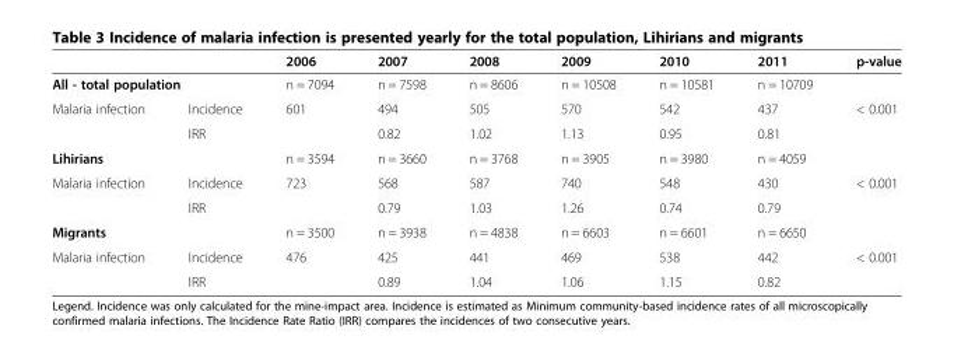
<table><thead><tr><td></td><td></td><td>2006</td><td>2007</td><td>2008</td><td>2009</td><td>2010</td><td>2011</td><td>p-value</td></tr></thead><tbody><tr><td>All - total population</td><td></td><td>n = 7094</td><td>n = 7598</td><td>n = 8606</td><td>n = 10508</td><td>n = 10581</td><td>n = 10709</td><td></td></tr><tr><td rowspan="2">Malaria infection</td><td>Incidence</td><td>601</td><td>494</td><td>505</td><td>570</td><td>542</td><td>437</td><td rowspan="2">&lt; 0.001</td></tr><tr><td>IRR</td><td></td><td>0.82</td><td>1.02</td><td>1.13</td><td>0.95</td><td>0.81</td></tr><tr><td>Lihirians</td><td></td><td>n = 3594</td><td>n = 3660</td><td>n = 3768</td><td>n = 3905</td><td>n = 3980</td><td>n = 4059</td><td></td></tr><tr><td rowspan="2">Malaria infection</td><td>Incidence</td><td>723</td><td>568</td><td>587</td><td>740</td><td>548</td><td>430</td><td rowspan="2">&lt; 0.001</td></tr><tr><td>IRR</td><td></td><td>0.79</td><td>1.03</td><td>1.26</td><td>0.74</td><td>0.79</td></tr><tr><td>Migrants</td><td></td><td>n = 3500</td><td>n = 3938</td><td>n = 4838</td><td>n = 6603</td><td>n = 6601</td><td>n = 6650</td><td></td></tr><tr><td rowspan="2">Malaria infection</td><td>Incidence</td><td>476</td><td>425</td><td>441</td><td>469</td><td>538</td><td>442</td><td rowspan="2">&lt; 0.001</td></tr><tr><td>IRR</td><td></td><td>0.89</td><td>1.04</td><td>1.06</td><td>1.15</td><td>0.82</td></tr></tbody></table>